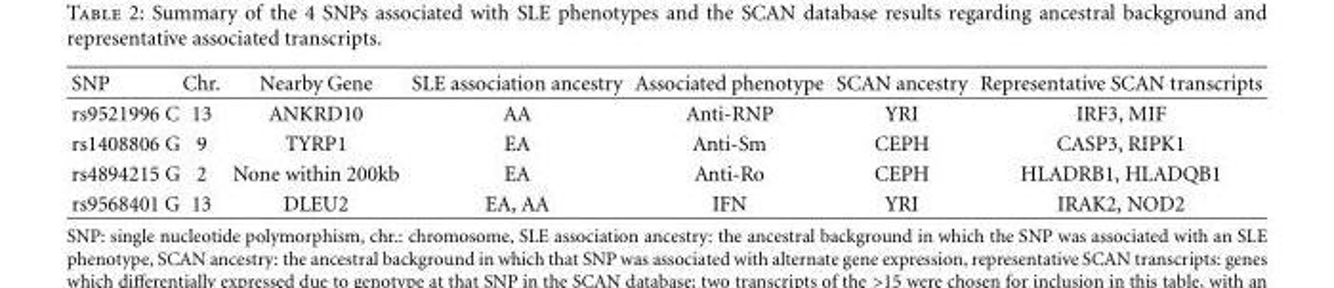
<table><thead><tr><td>SNP</td><td>Chr.</td><td>Nearby Gene</td><td>SLE association ancestry</td><td>Associated phenotype</td><td>SCAN ancestry</td><td>Representative SCAN transcripts</td></tr></thead><tbody><tr><td>rs9521996 C</td><td>13</td><td>ANKRD10</td><td>AA</td><td>Anti-RNP</td><td>YRI</td><td>IRF3, MIF</td></tr><tr><td>rs1408806 G</td><td>9</td><td>TYRP1</td><td>EA</td><td>Anti-Sm</td><td>CEPH</td><td>CASP3, RIPK1</td></tr><tr><td>rs4894215 G</td><td>2</td><td>None within 200kb</td><td>EA</td><td>Anti-Ro</td><td>CEPH</td><td>HLADRB1, HLADQB1</td></tr><tr><td>rs9568401 G</td><td>13</td><td>DLEU2</td><td>EA, AA</td><td>IFN</td><td>YRI</td><td>IRAK2, NOD2</td></tr></tbody></table>